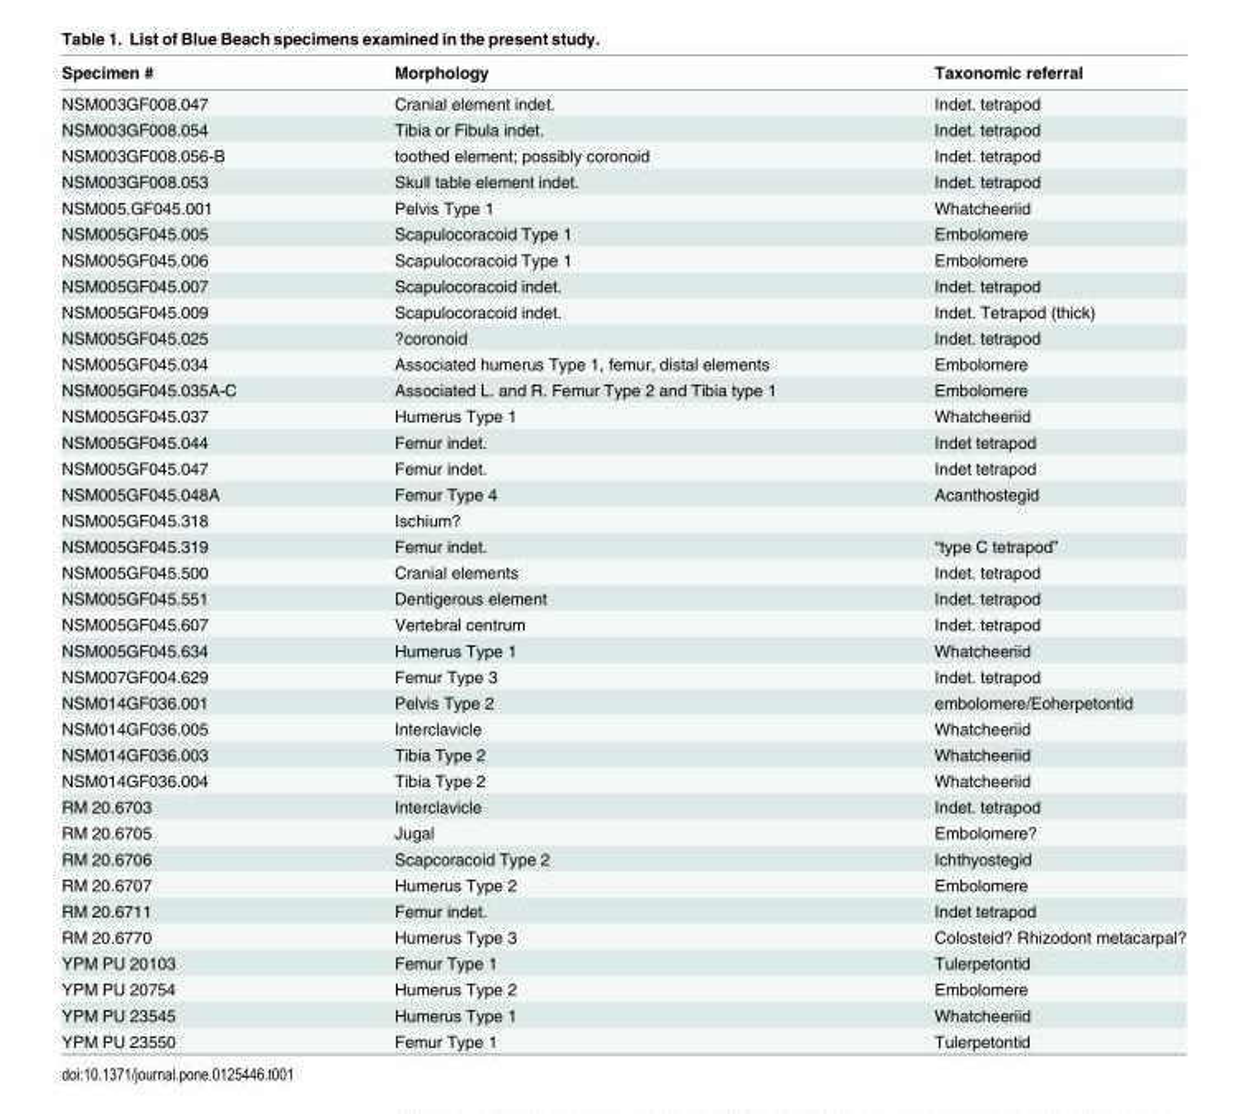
<table><thead><tr><td>Specimen #</td><td>Morphology</td><td>Taxonomic referral</td></tr></thead><tbody><tr><td>NSM003GF008.047</td><td>Cranial element indet.</td><td>Indet. tetrapod</td></tr><tr><td>NSM003GF008.054</td><td>Tibia or Fibula indet.</td><td>Indet. tetrapod</td></tr><tr><td>NSM003GF008.056-B</td><td>toothed element; possibly coronoid</td><td>Indet. tetrapod</td></tr><tr><td>NSM003GF008.053</td><td>Skull table element indet.</td><td>Indet. tetrapod</td></tr><tr><td>NSM005.GF045.001</td><td>Pelvis Type 1</td><td>Whatcheeriid</td></tr><tr><td>NSM005GF045.005</td><td>Scapulocoracoid Type 1</td><td>Embolomere</td></tr><tr><td>NSM005GF045.006</td><td>Scapulocoracoid Type 1</td><td>Embolomere</td></tr><tr><td>NSM005GF045.007</td><td>Scapulocoracoid indet.</td><td>Indet. tetrapod</td></tr><tr><td>NSM005GF045.009</td><td>Scapulocoracoid indet.</td><td>Indet. Tetrapod (thick)</td></tr><tr><td>NSM005GF045.025</td><td>?coronoid</td><td>Indet. tetrapod</td></tr><tr><td>NSM005GF045.034</td><td>Associated humerus Type 1, femur, distal elements</td><td>Embolomere</td></tr><tr><td>NSM005GF045.035A-C</td><td>Associated L. and R. Femur Type 2 and Tibia type 1</td><td>Embolomere</td></tr><tr><td>NSM005GF045.037</td><td>Humerus Type 1</td><td>Whatcheeriid</td></tr><tr><td>NSM005GF045.044</td><td>Femur indet.</td><td>Indet tetrapod</td></tr><tr><td>NSM005GF045.047</td><td>Femur indet.</td><td>Indet tetrapod</td></tr><tr><td>NSM005GF045.048A</td><td>Femur Type 4</td><td>Acanthostegid</td></tr><tr><td>NSM005GF045.318</td><td>Ischium?</td><td></td></tr><tr><td>NSM005GF045.319</td><td>Femur indet.</td><td>“type C tetrapod”</td></tr><tr><td>NSM005GF045.500</td><td>Cranial elements</td><td>Indet. tetrapod</td></tr><tr><td>NSM005GF045.551</td><td>Dentigerous element</td><td>Indet. tetrapod</td></tr><tr><td>NSM005GF045.607</td><td>Vertebral centrum</td><td>Indet. tetrapod</td></tr><tr><td>NSM005GF045.634</td><td>Humerus Type 1</td><td>Whatcheeriid</td></tr><tr><td>NSM007GF004.629</td><td>Femur Type 3</td><td>Indet. tetrapod</td></tr><tr><td>NSM014GF036.001</td><td>Pelvis Type 2</td><td>embolomere/Eoherpetontid</td></tr><tr><td>NSM014GF036.005</td><td>Interclavicle</td><td>Whatcheeriid</td></tr><tr><td>NSM014GF036.003</td><td>Tibia Type 2</td><td>Whatcheeriid</td></tr><tr><td>NSM014GF036.004</td><td>Tibia Type 2</td><td>Whatcheeriid</td></tr><tr><td>RM 20.6703</td><td>Interclavicle</td><td>Indet. tetrapod</td></tr><tr><td>RM 20.6705</td><td>Jugal</td><td>Embolomere?</td></tr><tr><td>RM 20.6706</td><td>Scapcoracoid Type 2</td><td>Ichthyostegid</td></tr><tr><td>RM 20.6707</td><td>Humerus Type 2</td><td>Embolomere</td></tr><tr><td>RM 20.6711</td><td>Femur indet.</td><td>Indet tetrapod</td></tr><tr><td>RM 20.6770</td><td>Humerus Type 3</td><td>Colosteid? Rhizodont metacarpal?</td></tr><tr><td>YPM PU 20103</td><td>Femur Type 1</td><td>Tulerpetontid</td></tr><tr><td>YPM PU 20754</td><td>Humerus Type 2</td><td>Embolomere</td></tr><tr><td>YPM PU 23545</td><td>Humerus Type 1</td><td>Whatcheeriid</td></tr><tr><td>YPM PU 23550</td><td>Femur Type 1</td><td>Tulerpetontid</td></tr></tbody></table>